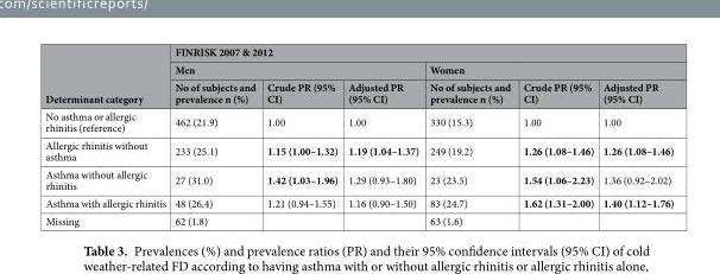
<table><thead><tr><td rowspan="3">Determinant category</td><td colspan="6">FINRISK 2007 &amp; 2012</td></tr><tr><td colspan="3">Men</td><td colspan="3">Women</td></tr><tr><td>No of subjects and prevalence n (%)</td><td>Crude PR (95% CI)</td><td>Adjusted PR (95% CI)</td><td>No of subjects and prevalence n (%)</td><td>Crude PR (95% CI)</td><td>Adjusted PR (95% CI)</td></tr></thead><tbody><tr><td>No asthma or allergic rhinitis (reference)</td><td>462 (21.9)</td><td>1.00</td><td>1.00</td><td>330 (15.3)</td><td>1.00</td><td>1.00</td></tr><tr><td>Allergic rhinitis without asthma</td><td>233 (25.1)</td><td>1.15 (1.00–1.32)</td><td>1.19 (1.04–1.37)</td><td>249 (19.2)</td><td>1.26 (1.08–1.46)</td><td>1.26 (1.08–1.46)</td></tr><tr><td>Asthma without allergic rhinitis</td><td>27 (31.0)</td><td>1.42 (1.03–1.96)</td><td>1.29 (0.93–1.80)</td><td>23 (23.5)</td><td>1.54 (1.06–2.23)</td><td>1.36 (0.92–2.02)</td></tr><tr><td>Asthma with allergic rhinitis</td><td>48 (26.4)</td><td>1.21 (0.94–1.55)</td><td>1.16 (0.90–1.50)</td><td>83 (24.7)</td><td>1.62 (1.31–2.00)</td><td>1.40 (1.12–1.76)</td></tr><tr><td>Missing</td><td>62 (1.8)</td><td></td><td></td><td>63 (1.6)</td><td></td><td></td></tr></tbody></table>